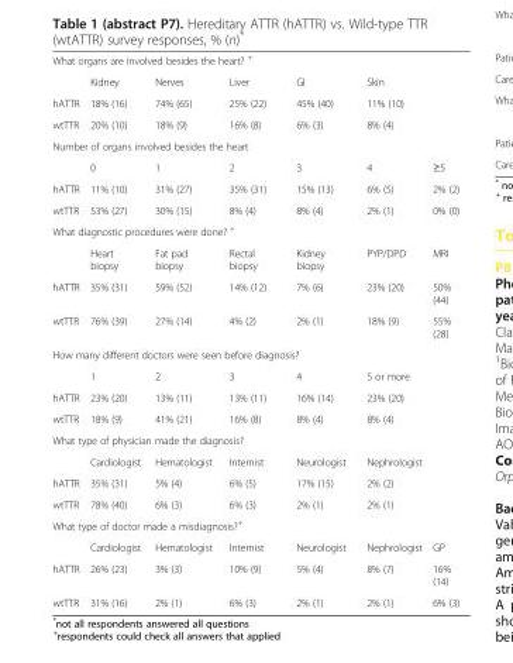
<table><tbody><tr><td colspan="7">What organs are involved besides the heart? <sup>+</sup></td></tr><tr><td></td><td>Kidney</td><td>Nerves</td><td>Liver</td><td>GI</td><td>Skin</td><td></td></tr><tr><td>hATTR</td><td>18% (16)</td><td>74% (65)</td><td>25% (22)</td><td>45% (40)</td><td>11% (10)</td><td></td></tr><tr><td>wtTTR</td><td>20% (10)</td><td>18% (9)</td><td>16% (8)</td><td>6% (3)</td><td>8% (4)</td><td></td></tr><tr><td colspan="7">Number of organs involved besides the heart</td></tr><tr><td></td><td>0</td><td>1</td><td>2</td><td>3</td><td>4</td><td>≥5</td></tr><tr><td>hATTR</td><td>11% (10)</td><td>31% (27)</td><td>35% (31)</td><td>15% (13)</td><td>6% (5)</td><td>2% (2)</td></tr><tr><td>wtTTR</td><td>53% (27)</td><td>30% (15)</td><td>8% (4)</td><td>8% (4)</td><td>2% (1)</td><td>0% (0)</td></tr><tr><td colspan="7">What diagnostic procedures were done? <sup>+</sup></td></tr><tr><td></td><td>Heart biopsy</td><td>Fat pad biopsy</td><td>Rectal biopsy</td><td>Kidney biopsy</td><td>PYP/DPD</td><td>MRI</td></tr><tr><td>hATTR</td><td>35% (31)</td><td>59% (52)</td><td>14% (12)</td><td>7% (6)</td><td>23% (20)</td><td>50% (44)</td></tr><tr><td>wtTTR</td><td>76% (39)</td><td>27% (14)</td><td>4% (2)</td><td>2% (1)</td><td>18% (9)</td><td>55% (28)</td></tr><tr><td colspan="7">How many different doctors were seen before diagnosis?</td></tr><tr><td></td><td>1</td><td>2</td><td>3</td><td>4</td><td>5 or more</td><td></td></tr><tr><td>hATTR</td><td>23% (20)</td><td>13% (11)</td><td>13% (11)</td><td>16% (14)</td><td>23% (20)</td><td></td></tr><tr><td>wtTTR</td><td>18% (9)</td><td>41% (21)</td><td>16% (8)</td><td>8% (4)</td><td>8% (4)</td><td></td></tr><tr><td colspan="7">What type of physician made the diagnosis?</td></tr><tr><td></td><td>Cardiologist</td><td>Hematologist</td><td>Internist</td><td>Neurologist</td><td>Nephrologist</td><td></td></tr><tr><td>hATTR</td><td>35% (31)</td><td>5% (4)</td><td>6% (5)</td><td>17% (15)</td><td>2% (2)</td><td></td></tr><tr><td>wtTTR</td><td>78% (40)</td><td>6% (3)</td><td>6% (3)</td><td>2% (1)</td><td>2% (1)</td><td></td></tr><tr><td colspan="7">What type of doctor made a misdiagnosis?<sup>+</sup></td></tr><tr><td></td><td>Cardiologist</td><td>Hematologist</td><td>Internist</td><td>Neurologist</td><td>Nephrologist</td><td>GP</td></tr><tr><td>hATTR</td><td>26% (23)</td><td>3% (3)</td><td>10% (9)</td><td>5% (4)</td><td>8% (7)</td><td>16% (14)</td></tr><tr><td>wtTTR</td><td>31% (16)</td><td>2% (1)</td><td>6% (3)</td><td>2% (1)</td><td>2% (1)</td><td>6% (3)</td></tr></tbody></table>